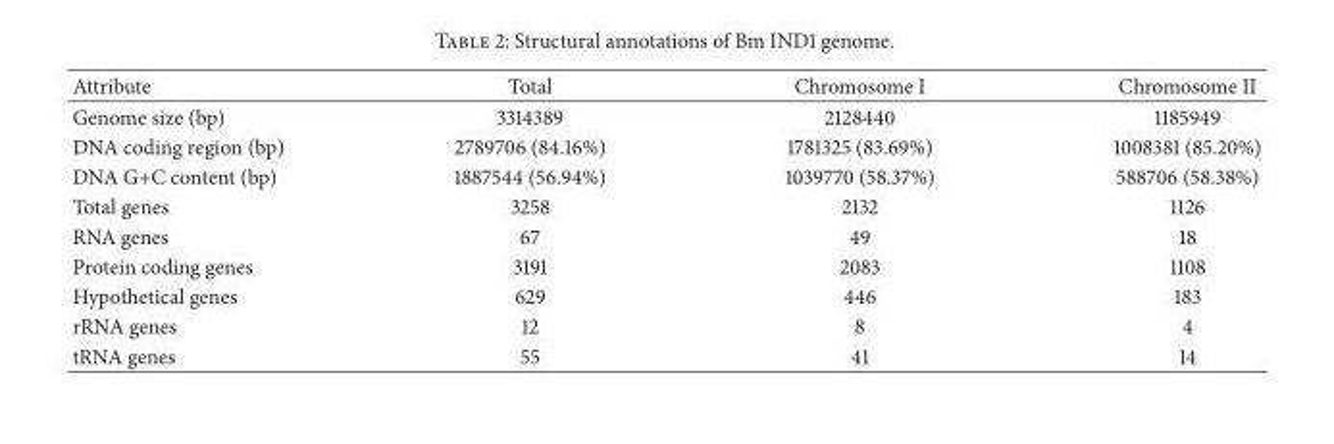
<table><thead><tr><td>Attribute</td><td>Total</td><td>Chromosome I</td><td>Chromosome II</td></tr></thead><tbody><tr><td>Genome size (bp)</td><td>3314389</td><td>2128440</td><td>1185949</td></tr><tr><td>DNA coding region (bp)</td><td>2789706 (84.16%)</td><td>1781325 (83.69%)</td><td>1008381 (85.20%)</td></tr><tr><td>DNA G+C content (bp)</td><td>1887544 (56.94%)</td><td>1039770 (58.37%)</td><td>588706 (58.38%)</td></tr><tr><td>Total genes</td><td>3258</td><td>2132</td><td>1126</td></tr><tr><td>RNA genes</td><td>67</td><td>49</td><td>18</td></tr><tr><td>Protein coding genes</td><td>3191</td><td>2083</td><td>1108</td></tr><tr><td>Hypothetical genes</td><td>629</td><td>446</td><td>183</td></tr><tr><td>rRNA genes</td><td>12</td><td>8</td><td>4</td></tr><tr><td>tRNA genes</td><td>55</td><td>41</td><td>14</td></tr></tbody></table>